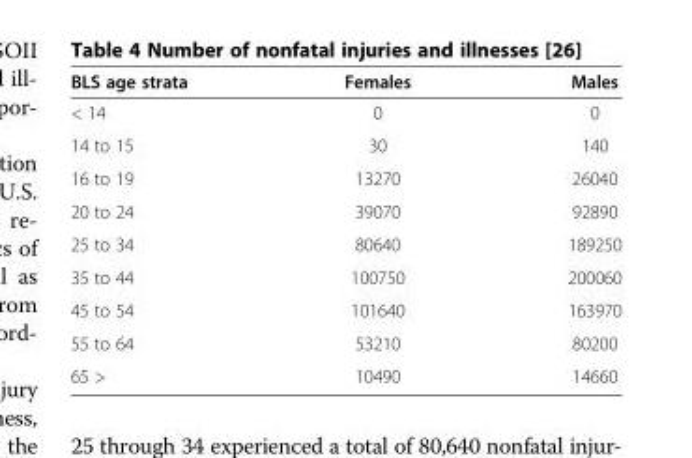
<table><thead><tr><td>BLS age strata</td><td>Females</td><td>Males</td></tr></thead><tbody><tr><td>&lt; 14</td><td>0</td><td>0</td></tr><tr><td>14 to 15</td><td>30</td><td>140</td></tr><tr><td>16 to 19</td><td>13270</td><td>26040</td></tr><tr><td>20 to 24</td><td>39070</td><td>92890</td></tr><tr><td>25 to 34</td><td>80640</td><td>189250</td></tr><tr><td>35 to 44</td><td>100750</td><td>200060</td></tr><tr><td>45 to 54</td><td>101640</td><td>163970</td></tr><tr><td>55 to 64</td><td>53210</td><td>80200</td></tr><tr><td>65 &gt;</td><td>10490</td><td>14660</td></tr></tbody></table>